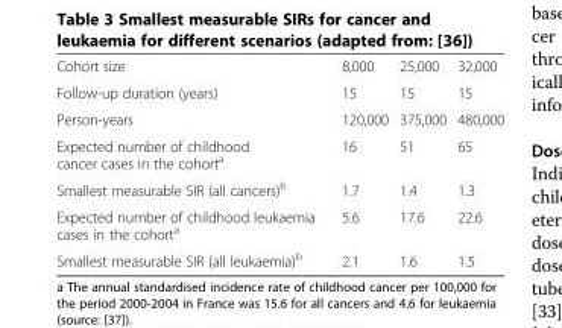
<table><tbody><tr><td>Cohort size</td><td>8,000</td><td>25,000</td><td>32,000</td></tr><tr><td>Follow-up duration (years)</td><td>15</td><td>15</td><td>15</td></tr><tr><td>Person-years</td><td>120,000</td><td>375,000</td><td>480,000</td></tr><tr><td>Expected number of childhood cancer cases in the cohort<sup>a</sup></td><td>16</td><td>51</td><td>65</td></tr><tr><td>Smallest measurable SIR (all cancers)<sup>b</sup></td><td>1.7</td><td>1.4</td><td>1.3</td></tr><tr><td>Expected number of childhood leukaemia cases in the cohort<sup>a</sup></td><td>5.6</td><td>17.6</td><td>22.6</td></tr><tr><td>Smallest measurable SIR (all leukaemia)<sup>b</sup></td><td>2.1</td><td>1.6</td><td>1.5</td></tr></tbody></table>